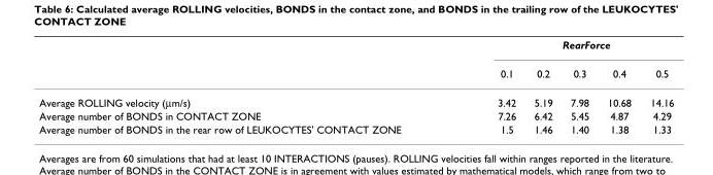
<table><thead><tr><td rowspan="2"></td><td colspan="5">RearForce</td></tr><tr><td>0.1</td><td>0.2</td><td>0.3</td><td>0.4</td><td>0.5</td></tr></thead><tbody><tr><td>Average ROLLING velocity (μm/s)</td><td>3.42</td><td>5.19</td><td>7.98</td><td>10.68</td><td>14.16</td></tr><tr><td>Average number of BONDS in CONTACT ZONE</td><td>7.26</td><td>6.42</td><td>5.45</td><td>4.87</td><td>4.29</td></tr><tr><td>Average number of BONDS in the rear row of LEUKOCYTES&#x27; CONTACT ZONE</td><td>1.5</td><td>1.46</td><td>1.40</td><td>1.38</td><td>1.33</td></tr></tbody></table>